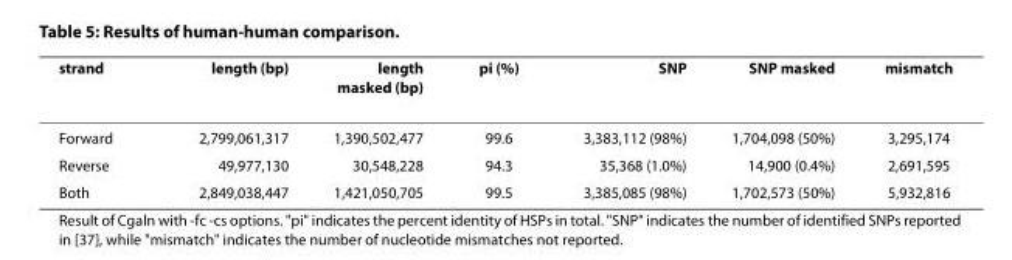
<table><thead><tr><td>strand</td><td>length (bp)</td><td>length masked (bp)</td><td>pi (%)</td><td>SNP</td><td>SNP masked</td><td>mismatch</td></tr></thead><tbody><tr><td>Forward</td><td>2,799,061,317</td><td>1,390,502,477</td><td>99.6</td><td>3,383,112 (98%)</td><td>1,704,098 (50%)</td><td>3,295,174</td></tr><tr><td>Reverse</td><td>49,977,130</td><td>30,548,228</td><td>94.3</td><td>35,368 (1.0%)</td><td>14,900 (0.4%)</td><td>2,691,595</td></tr><tr><td>Both</td><td>2,849,038,447</td><td>1,421,050,705</td><td>99.5</td><td>3,385,085 (98%)</td><td>1,702,573 (50%)</td><td>5,932,816</td></tr></tbody></table>